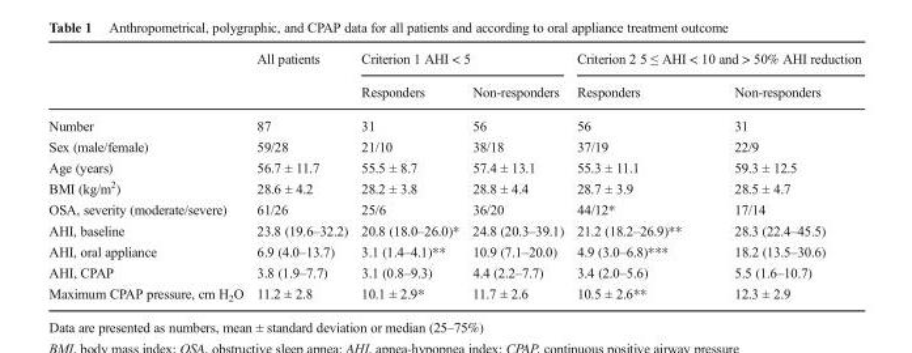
<table><thead><tr><td rowspan="2"></td><td rowspan="2">All patients</td><td colspan="2">Criterion 1 AHI &lt; 5</td><td colspan="2">Criterion 2 5 ≤ AHI &lt; 10 and &gt; 50% AHI reduction</td></tr><tr><td>Responders</td><td>Non-responders</td><td>Responders</td><td>Non-responders</td></tr></thead><tbody><tr><td>Number</td><td>87</td><td>31</td><td>56</td><td>56</td><td>31</td></tr><tr><td>Sex (male/female)</td><td>59/28</td><td>21/10</td><td>38/18</td><td>37/19</td><td>22/9</td></tr><tr><td>Age (years)</td><td>56.7 ± 11.7</td><td>55.5 ± 8.7</td><td>57.4 ± 13.1</td><td>55.3 ± 11.1</td><td>59.3 ± 12.5</td></tr><tr><td>BMI (kg/m<sup>2</sup>)</td><td>28.6 ± 4.2</td><td>28.2 ± 3.8</td><td>28.8 ± 4.4</td><td>28.7 ± 3.9</td><td>28.5 ± 4.7</td></tr><tr><td>OSA, severity (moderate/severe)</td><td>61/26</td><td>25/6</td><td>36/20</td><td>44/12*</td><td>17/14</td></tr><tr><td>AHI, baseline</td><td>23.8 (19.6–32.2)</td><td>20.8 (18.0–26.0)*</td><td>24.8 (20.3–39.1)</td><td>21.2 (18.2–26.9)**</td><td>28.3 (22.4–45.5)</td></tr><tr><td>AHI, oral appliance</td><td>6.9 (4.0–13.7)</td><td>3.1 (1.4–4.1)**</td><td>10.9 (7.1–20.0)</td><td>4.9 (3.0–6.8)***</td><td>18.2 (13.5–30.6)</td></tr><tr><td>AHI, CPAP</td><td>3.8 (1.9–7.7)</td><td>3.1 (0.8–9.3)</td><td>4.4 (2.2–7.7)</td><td>3.4 (2.0–5.6)</td><td>5.5 (1.6–10.7)</td></tr><tr><td>Maximum CPAP pressure, cm H<sub>2</sub>O</td><td>11.2 ± 2.8</td><td>10.1 ± 2.9*</td><td>11.7 ± 2.6</td><td>10.5 ± 2.6**</td><td>12.3 ± 2.9</td></tr></tbody></table>